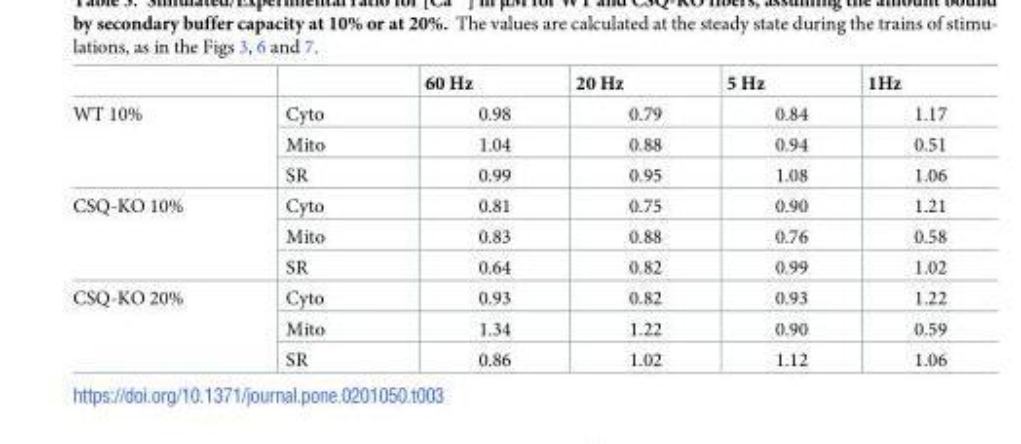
<table><thead><tr><td></td><td></td><td>60 Hz</td><td>20 Hz</td><td>5 Hz</td><td>1Hz</td></tr></thead><tbody><tr><td rowspan="3">WT 10%</td><td>Cyto</td><td>0.98</td><td>0.79</td><td>0.84</td><td>1.17</td></tr><tr><td>Mito</td><td>1.04</td><td>0.88</td><td>0.94</td><td>0.51</td></tr><tr><td>SR</td><td>0.99</td><td>0.95</td><td>1.08</td><td>1.06</td></tr><tr><td rowspan="3">CSQ-KO 10%</td><td>Cyto</td><td>0.81</td><td>0.75</td><td>0.90</td><td>1.21</td></tr><tr><td>Mito</td><td>0.83</td><td>0.88</td><td>0.76</td><td>0.58</td></tr><tr><td>SR</td><td>0.64</td><td>0.82</td><td>0.99</td><td>1.02</td></tr><tr><td rowspan="3">CSQ-KO 20%</td><td>Cyto</td><td>0.93</td><td>0.82</td><td>0.93</td><td>1.22</td></tr><tr><td>Mito</td><td>1.34</td><td>1.22</td><td>0.90</td><td>0.59</td></tr><tr><td>SR</td><td>0.86</td><td>1.02</td><td>1.12</td><td>1.06</td></tr></tbody></table>